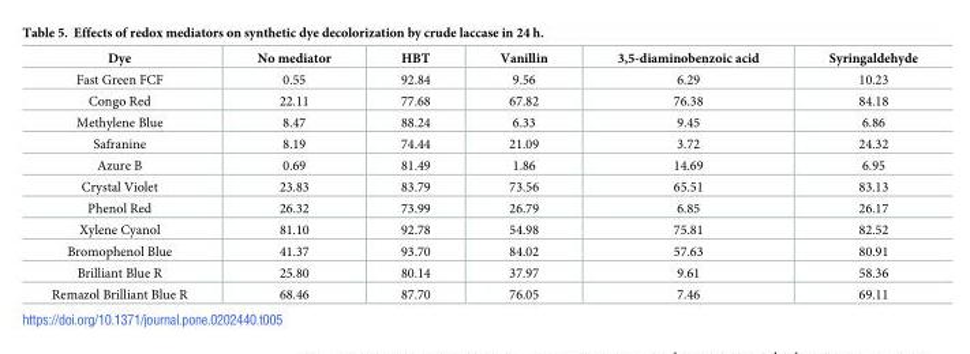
<table><thead><tr><td>Dye</td><td>No mediator</td><td>HBT</td><td>Vanillin</td><td>3,5-diaminobenzoic acid</td><td>Syringaldehyde</td></tr></thead><tbody><tr><td>Fast Green FCF</td><td>0.55</td><td>92.84</td><td>9.56</td><td>6.29</td><td>10.23</td></tr><tr><td>Congo Red</td><td>22.11</td><td>77.68</td><td>67.82</td><td>76.38</td><td>84.18</td></tr><tr><td>Methylene Blue</td><td>8.47</td><td>88.24</td><td>6.33</td><td>9.45</td><td>6.86</td></tr><tr><td>Safranine</td><td>8.19</td><td>74.44</td><td>21.09</td><td>3.72</td><td>24.32</td></tr><tr><td>Azure B</td><td>0.69</td><td>81.49</td><td>1.86</td><td>14.69</td><td>6.95</td></tr><tr><td>Crystal Violet</td><td>23.83</td><td>83.79</td><td>73.56</td><td>65.51</td><td>83.13</td></tr><tr><td>Phenol Red</td><td>26.32</td><td>73.99</td><td>26.79</td><td>6.85</td><td>26.17</td></tr><tr><td>Xylene Cyanol</td><td>81.10</td><td>92.78</td><td>54.98</td><td>75.81</td><td>82.52</td></tr><tr><td>Bromophenol Blue</td><td>41.37</td><td>93.70</td><td>84.02</td><td>57.63</td><td>80.91</td></tr><tr><td>Brilliant Blue R</td><td>25.80</td><td>80.14</td><td>37.97</td><td>9.61</td><td>58.36</td></tr><tr><td>Remazol Brilliant Blue R</td><td>68.46</td><td>87.70</td><td>76.05</td><td>7.46</td><td>69.11</td></tr></tbody></table>